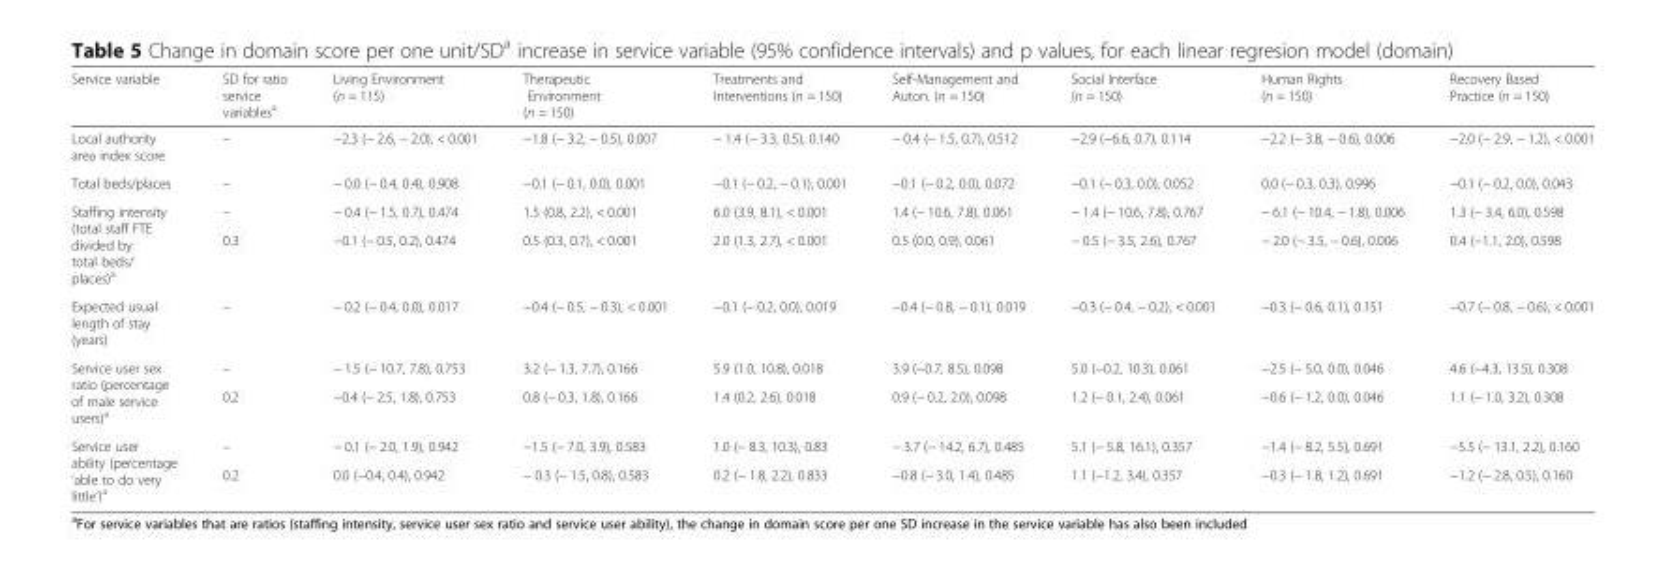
<table><thead><tr><td>Service variable</td><td>SD for ratio service variables<sup>a</sup></td><td>Living Environment (n = 115)</td><td>Therapeutic Environment (n = 150)</td><td>Treatments and Interventions (n = 150)</td><td>Self-Management and Auton. (n = 150)</td><td>Social Interface (n = 150)</td><td>Human Rights (n = 150)</td><td>Recovery Based Practice (n = 150)</td></tr></thead><tbody><tr><td>Local authority area index score</td><td>–</td><td>−2.3 (− 2.6, − 2.0), &lt; 0.001</td><td>−1.8 (− 3.2, − 0.5), 0.007</td><td>− 1.4 (− 3.3, 0.5), 0.140</td><td>− 0.4 (− 1.5, 0.7), 0.512</td><td>−2.9 (−6.6, 0.7), 0.114</td><td>−2.2 (− 3.8, − 0.6), 0.006</td><td>−2.0 (− 2.9, − 1.2), &lt; 0.001</td></tr><tr><td>Total beds/places</td><td>–</td><td>− 0.0 (− 0.4, 0.4), 0.908</td><td>−0.1 (− 0.1, 0.0), 0.001</td><td>−0.1 (− 0.2, − 0.1), 0.001</td><td>−0.1 (− 0.2, 0.0), 0.072</td><td>−0.1 (− 0.3, 0.0), 0.052</td><td>0.0 (− 0.3, 0.3), 0.996</td><td>−0.1 (− 0.2, 0.0), 0.043</td></tr><tr><td rowspan="2">Staffing intensity (total staff FTE divided by total beds/ places)<sup>a</sup></td><td>–</td><td>− 0.4 (− 1.5, 0.7), 0.474</td><td>1.5 (0.8, 2.2), &lt; 0.001</td><td>6.0 (3.9, 8.1), &lt; 0.001</td><td>1.4 (− 10.6, 7.8), 0.061</td><td>− 1.4 (− 10.6, 7.8), 0.767</td><td>− 6.1 (− 10.4, − 1.8), 0.006</td><td>1.3 (− 3.4, 6.0), 0.598</td></tr><tr><td>0.3</td><td>−0.1 (− 0.5, 0.2), 0.474</td><td>0.5 (0.3, 0.7), &lt; 0.001</td><td>2.0 (1.3, 2.7), &lt; 0.001</td><td>0.5 (0.0, 0.9), 0.061</td><td>− 0.5 (− 3.5, 2.6), 0.767</td><td>− 2.0 (− 3.5, − 0.6), 0.006</td><td>0.4 (−1.1, 2.0), 0.598</td></tr><tr><td>Expected usual length of stay (years)</td><td>–</td><td>− 0.2 (− 0.4, 0.0), 0.017</td><td>−0.4 (− 0.5, − 0.3), &lt; 0.001</td><td>−0.1 (− 0.2, 0.0), 0.019</td><td>−0.4 (− 0.8, − 0.1), 0.019</td><td>−0.3 (− 0.4, − 0.2), &lt; 0.001</td><td>−0.3 (− 0.6, 0.1), 0.151</td><td>−0.7 (− 0.8, − 0.6), &lt; 0.001</td></tr><tr><td rowspan="2">Service user sex ratio (percentage of male service users)<sup>a</sup></td><td>–</td><td>− 1.5 (− 10.7, 7.8), 0.753</td><td>3.2 (− 1.3, 7.7), 0.166</td><td>5.9 (1.0, 10.8), 0.018</td><td>3.9 (−0.7, 8.5), 0.098</td><td>5.0 (−0.2, 10.3), 0.061</td><td>−2.5 (− 5.0, 0.0), 0.046</td><td>4.6 (−4.3, 13.5), 0.308</td></tr><tr><td>0.2</td><td>−0.4 (− 2.5, 1.8), 0.753</td><td>0.8 (− 0.3, 1.8), 0.166</td><td>1.4 (0.2, 2.6), 0.018</td><td>0.9 (− 0.2, 2.0), 0.098</td><td>1.2 (− 0.1, 2.4), 0.061</td><td>−0.6 (− 1.2, 0.0), 0.046</td><td>1.1 (− 1.0, 3.2), 0.308</td></tr><tr><td rowspan="2">Service user ability (percentage ‘able to do very little’)<sup>a</sup></td><td>–</td><td>− 0.1 (− 2.0, 1.9), 0.942</td><td>−1.5 (− 7.0, 3.9), 0.583</td><td>1.0 (− 8.3, 10.3), 0.83</td><td>− 3.7 (− 14.2, 6.7), 0.485</td><td>5.1 (− 5.8, 16.1), 0.357</td><td>−1.4 (− 8.2, 5.5), 0.691</td><td>−5.5 (− 13.1, 2.2), 0.160</td></tr><tr><td>0.2</td><td>0.0 (−0.4, 0.4), 0.942</td><td>− 0.3 (− 1.5, 0.8), 0.583</td><td>0.2 (− 1.8, 2.2), 0.833</td><td>−0.8 (− 3.0, 1.4), 0.485</td><td>1.1 (−1.2, 3.4), 0.357</td><td>−0.3 (− 1.8, 1.2), 0.691</td><td>−1.2 (− 2.8, 0.5), 0.160</td></tr></tbody></table>